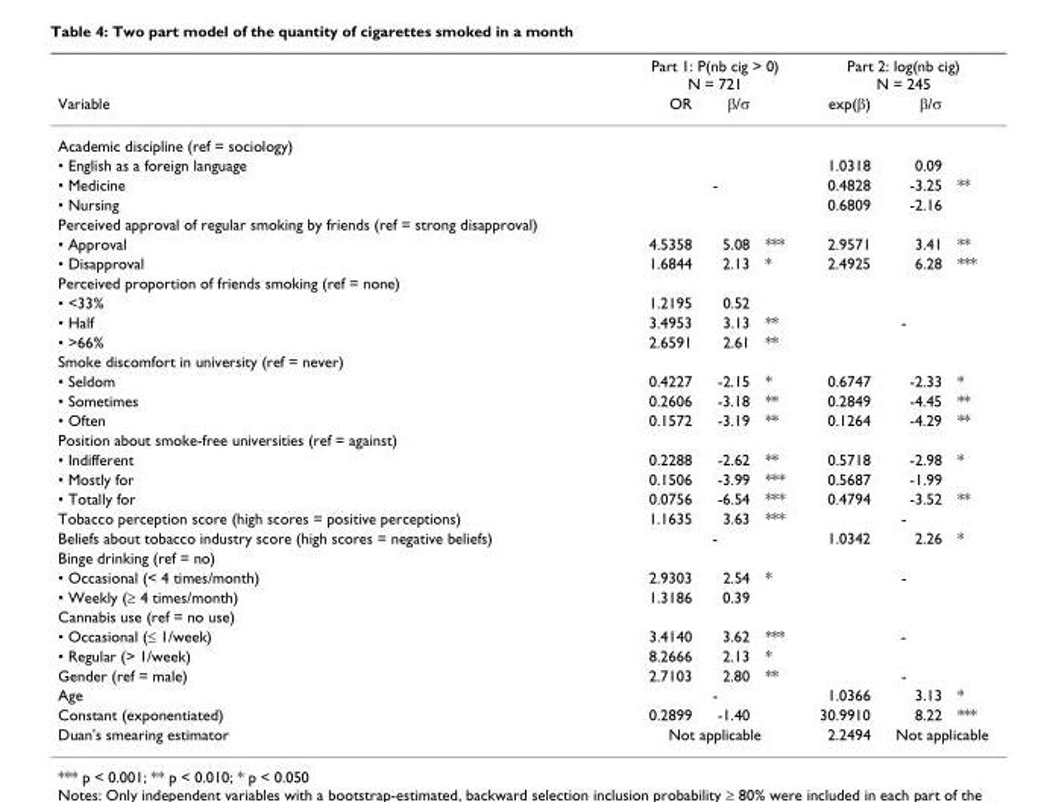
<table><thead><tr><td rowspan="2">Variable</td><td colspan="3">Part 1: P(nb cig &gt; 0) N = 721</td><td colspan="3">Part 2: log(nb cig) N = 245</td></tr><tr><td>OR</td><td>β/σ</td><td></td><td>exp(β)</td><td>β/σ</td><td></td></tr></thead><tbody><tr><td colspan="7">Academic discipline (ref = sociology)</td></tr><tr><td>• English as a foreign language</td><td></td><td></td><td></td><td>1.0318</td><td>0.09</td><td></td></tr><tr><td>• Medicine</td><td colspan="3">-</td><td>0.4828</td><td>-3.25</td><td>**</td></tr><tr><td>• Nursing</td><td></td><td></td><td></td><td>0.6809</td><td>-2.16</td><td></td></tr><tr><td colspan="7">Perceived approval of regular smoking by friends (ref = strong disapproval)</td></tr><tr><td>• Approval</td><td>4.5358</td><td>5.08</td><td>***</td><td>2.9571</td><td>3.41</td><td>**</td></tr><tr><td>• Disapproval</td><td>1.6844</td><td>2.13</td><td>*</td><td>2.4925</td><td>6.28</td><td>***</td></tr><tr><td colspan="7">Perceived proportion of friends smoking (ref = none)</td></tr><tr><td>• &lt;33%</td><td>1.2195</td><td>0.52</td><td></td><td></td><td></td><td></td></tr><tr><td>• Half</td><td>3.4953</td><td>3.13</td><td>**</td><td colspan="3">-</td></tr><tr><td>• &gt;66%</td><td>2.6591</td><td>2.61</td><td>**</td><td></td><td></td><td></td></tr><tr><td colspan="7">Smoke discomfort in university (ref = never)</td></tr><tr><td>• Seldom</td><td>0.4227</td><td>-2.15</td><td>*</td><td>0.6747</td><td>-2.33</td><td>*</td></tr><tr><td>• Sometimes</td><td>0.2606</td><td>-3.18</td><td>**</td><td>0.2849</td><td>-4.45</td><td>**</td></tr><tr><td>• Often</td><td>0.1572</td><td>-3.19</td><td>**</td><td>0.1264</td><td>-4.29</td><td>**</td></tr><tr><td colspan="7">Position about smoke-free universities (ref = against)</td></tr><tr><td>• Indifferent</td><td>0.2288</td><td>-2.62</td><td>**</td><td>0.5718</td><td>-2.98</td><td>*</td></tr><tr><td>• Mostly for</td><td>0.1506</td><td>-3.99</td><td>***</td><td>0.5687</td><td>-1.99</td><td></td></tr><tr><td>• Totally for</td><td>0.0756</td><td>-6.54</td><td>***</td><td>0.4794</td><td>-3.52</td><td>**</td></tr><tr><td>Tobacco perception score (high scores = positive perceptions)</td><td>1.1635</td><td>3.63</td><td>***</td><td colspan="3">-</td></tr><tr><td>Beliefs about tobacco industry score (high scores = negative beliefs)</td><td colspan="3">-</td><td>1.0342</td><td>2.26</td><td>*</td></tr><tr><td colspan="7">Binge drinking (ref = no)</td></tr><tr><td>• Occasional (&lt; 4 times/month)</td><td>2.9303</td><td>2.54</td><td>*</td><td colspan="3">-</td></tr><tr><td>• Weekly (≥ 4 times/month)</td><td>1.3186</td><td>0.39</td><td></td><td></td><td></td><td></td></tr><tr><td colspan="7">Cannabis use (ref = no use)</td></tr><tr><td>• Occasional (≤ 1/week)</td><td>3.4140</td><td>3.62</td><td>***</td><td colspan="3">-</td></tr><tr><td>• Regular (&gt; 1/week)</td><td>8.2666</td><td>2.13</td><td>*</td><td></td><td></td><td></td></tr><tr><td>Gender (ref = male)</td><td>2.7103</td><td>2.80</td><td>**</td><td colspan="3">-</td></tr><tr><td>Age</td><td colspan="3">-</td><td>1.0366</td><td>3.13</td><td>*</td></tr><tr><td>Constant (exponentiated)</td><td>0.2899</td><td>-1.40</td><td></td><td>30.9910</td><td>8.22</td><td>***</td></tr><tr><td>Duan&#x27;s smearing estimator</td><td colspan="3">Not applicable</td><td>2.2494</td><td colspan="2">Not applicable</td></tr></tbody></table>